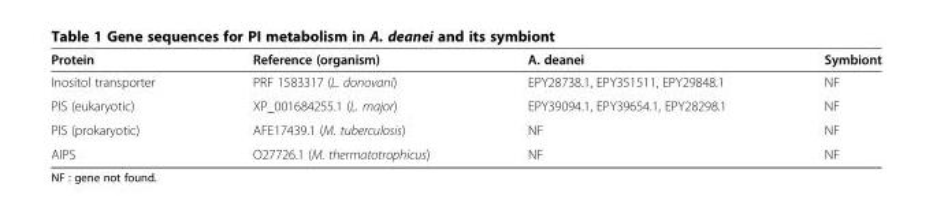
<table><thead><tr><td>Protein</td><td>Reference (organism)</td><td>A. deanei</td><td>Symbiont</td></tr></thead><tbody><tr><td>Inositol transporter</td><td>PRF 1583317 (L. donovani)</td><td>EPY28738.1, EPY351511, EPY29848.1</td><td>NF</td></tr><tr><td>PIS (eukaryotic)</td><td>XP_001684255.1 (L. major)</td><td>EPY39094.1, EPY39654.1, EPY28298.1</td><td>NF</td></tr><tr><td>PIS (prokaryotic)</td><td>AFE17439.1 (M. tuberculosis)</td><td>NF</td><td>NF</td></tr><tr><td>AIPS</td><td>O27726.1 (M. thermatotrophicus)</td><td>NF</td><td>NF</td></tr></tbody></table>